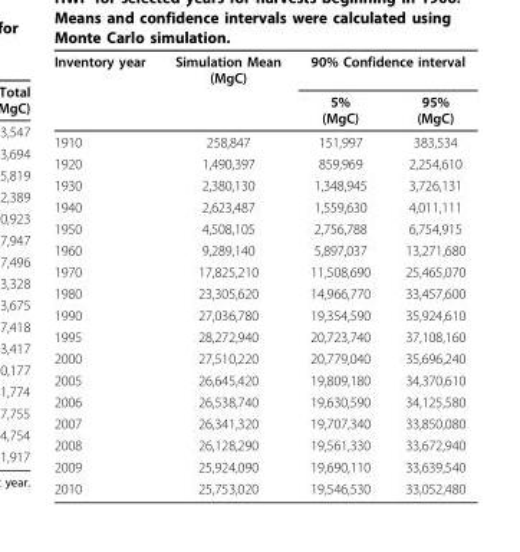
<table><thead><tr><td rowspan="2">Inventory year</td><td rowspan="2">Simulation Mean (MgC)</td><td colspan="2">90% Confidence interval</td></tr><tr><td>5% (MgC)</td><td>95% (MgC)</td></tr></thead><tbody><tr><td>1910</td><td>258,847</td><td>151,997</td><td>383,534</td></tr><tr><td>1920</td><td>1,490,397</td><td>859,969</td><td>2,254,610</td></tr><tr><td>1930</td><td>2,380,130</td><td>1,348,945</td><td>3,726,131</td></tr><tr><td>1940</td><td>2,623,487</td><td>1,559,630</td><td>4,011,111</td></tr><tr><td>1950</td><td>4,508,105</td><td>2,756,788</td><td>6,754,915</td></tr><tr><td>1960</td><td>9,289,140</td><td>5,897,037</td><td>13,271,680</td></tr><tr><td>1970</td><td>17,825,210</td><td>11,508,690</td><td>25,465,070</td></tr><tr><td>1980</td><td>23,305,620</td><td>14,966,770</td><td>33,457,600</td></tr><tr><td>1990</td><td>27,036,780</td><td>19,354,590</td><td>35,924,610</td></tr><tr><td>1995</td><td>28,272,940</td><td>20,723,740</td><td>37,108,160</td></tr><tr><td>2000</td><td>27,510,220</td><td>20,779,040</td><td>35,696,240</td></tr><tr><td>2005</td><td>26,645,420</td><td>19,809,180</td><td>34,370,610</td></tr><tr><td>2006</td><td>26,538,740</td><td>19,630,590</td><td>34,125,580</td></tr><tr><td>2007</td><td>26,341,320</td><td>19,707,340</td><td>33,850,080</td></tr><tr><td>2008</td><td>26,128,290</td><td>19,561,330</td><td>33,672,940</td></tr><tr><td>2009</td><td>25,924,090</td><td>19,690,110</td><td>33,639,540</td></tr><tr><td>2010</td><td>25,753,020</td><td>19,546,530</td><td>33,052,480</td></tr></tbody></table>